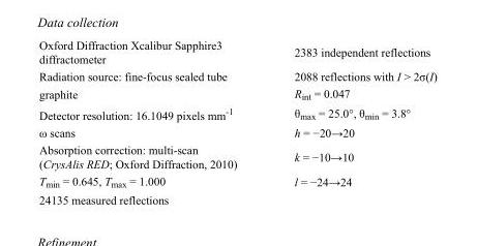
<table><tbody><tr><td>Oxford Diffraction Xcalibur Sapphire3 diffractometer</td><td>2383 independent reflections</td></tr><tr><td>Radiation source: fine-focus sealed tube</td><td>2088 reflections with I &gt; 2σ(I)</td></tr><tr><td>graphite</td><td>R<sub>int</sub> = 0.047</td></tr><tr><td>Detector resolution: 16.1049 pixels mm<sup>-1</sup></td><td>θ<sub>max</sub> = 25.0°, θ<sub>min</sub> = 3.8°</td></tr><tr><td>ω scans</td><td>h = −20→20</td></tr><tr><td>Absorption correction: multi-scan (CrysAlis RED; Oxford Diffraction, 2010)</td><td>k = −10→10</td></tr><tr><td>T<sub>min</sub> = 0.645, T<sub>max</sub> = 1.000</td><td>l = −24→24</td></tr><tr><td>24135 measured reflections</td><td></td></tr></tbody></table>